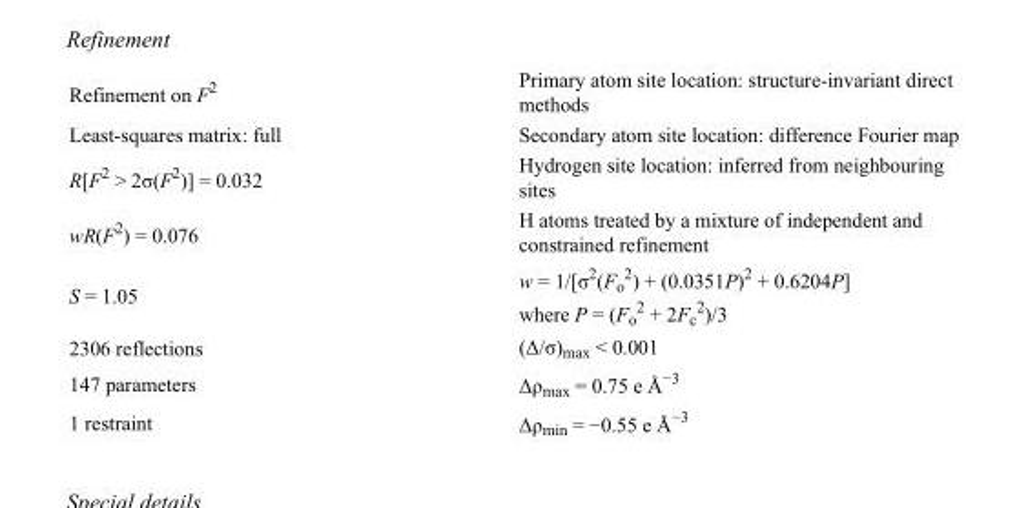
<table><tbody><tr><td>Refinement on F<sup>2</sup></td><td>Primary atom site location: structure-invariant direct methods</td></tr><tr><td>Least-squares matrix: full</td><td>Secondary atom site location: difference Fourier map</td></tr><tr><td>R[F<sup>2</sup> &gt; 2σ(F<sup>2</sup>)] = 0.032</td><td>Hydrogen site location: inferred from neighbouring sites</td></tr><tr><td>wR(F<sup>2</sup>) = 0.076</td><td>H atoms treated by a mixture of independent and constrained refinement</td></tr><tr><td>S = 1.05</td><td>w = 1/[σ<sup>2</sup>(F<sub>o</sub> <sup>2</sup>) + (0.0351P)<sup>2</sup> + 0.6204P] where P = (F<sub>o</sub> <sup>2</sup> + 2F<sub>c</sub> <sup>2</sup>)/3</td></tr><tr><td>2306 reflections</td><td>(Δ/σ)<sub>max</sub> &lt; 0.001</td></tr><tr><td>147 parameters</td><td>Δρ<sub>max</sub> = 0.75 e Å<sup>−3</sup></td></tr><tr><td>1 restraint</td><td>Δρ<sub>min</sub> = −0.55 e Å<sup>−3</sup></td></tr></tbody></table>